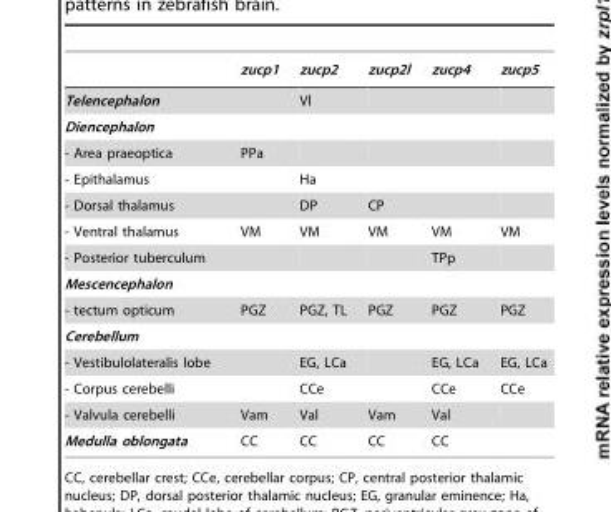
<table><thead><tr><td></td><td>zucp1</td><td>zucp2</td><td>zucp2l</td><td>zucp4</td><td>zucp5</td></tr></thead><tbody><tr><td>Telencephalon</td><td></td><td>Vl</td><td></td><td></td><td></td></tr><tr><td colspan="6">Diencephalon</td></tr><tr><td>- Area praeoptica</td><td>PPa</td><td></td><td></td><td></td><td></td></tr><tr><td>- Epithalamus</td><td></td><td>Ha</td><td></td><td></td><td></td></tr><tr><td>- Dorsal thalamus</td><td></td><td>DP</td><td>CP</td><td></td><td></td></tr><tr><td>- Ventral thalamus</td><td>VM</td><td>VM</td><td>VM</td><td>VM</td><td>VM</td></tr><tr><td>- Posterior tuberculum</td><td></td><td></td><td></td><td>TPp</td><td></td></tr><tr><td colspan="6">Mescencephalon</td></tr><tr><td>- tectum opticum</td><td>PGZ</td><td>PGZ, TL</td><td>PGZ</td><td>PGZ</td><td>PGZ</td></tr><tr><td colspan="6">Cerebellum</td></tr><tr><td>- Vestibulolateralis lobe</td><td></td><td>EG, LCa</td><td></td><td>EG, LCa</td><td>EG, LCa</td></tr><tr><td>- Corpus cerebelli</td><td></td><td>CCe</td><td></td><td>CCe</td><td>CCe</td></tr><tr><td>- Valvula cerebelli</td><td>Vam</td><td>Val</td><td>Vam</td><td>Val</td><td></td></tr><tr><td>Medulla oblongata</td><td>CC</td><td>CC</td><td>CC</td><td>CC</td><td></td></tr></tbody></table>